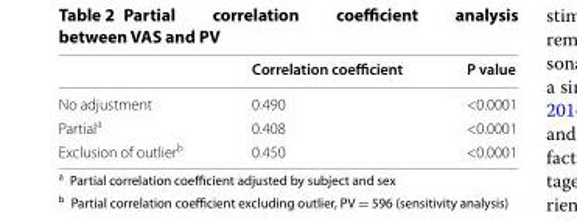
<table><thead><tr><td></td><td>Correlation coefficient</td><td>P value</td></tr></thead><tbody><tr><td>No adjustment</td><td>0.490</td><td>&lt;0.0001</td></tr><tr><td>Partial<sup>a</sup></td><td>0.408</td><td>&lt;0.0001</td></tr><tr><td>Exclusion of outlier<sup>b</sup></td><td>0.450</td><td>&lt;0.0001</td></tr></tbody></table>